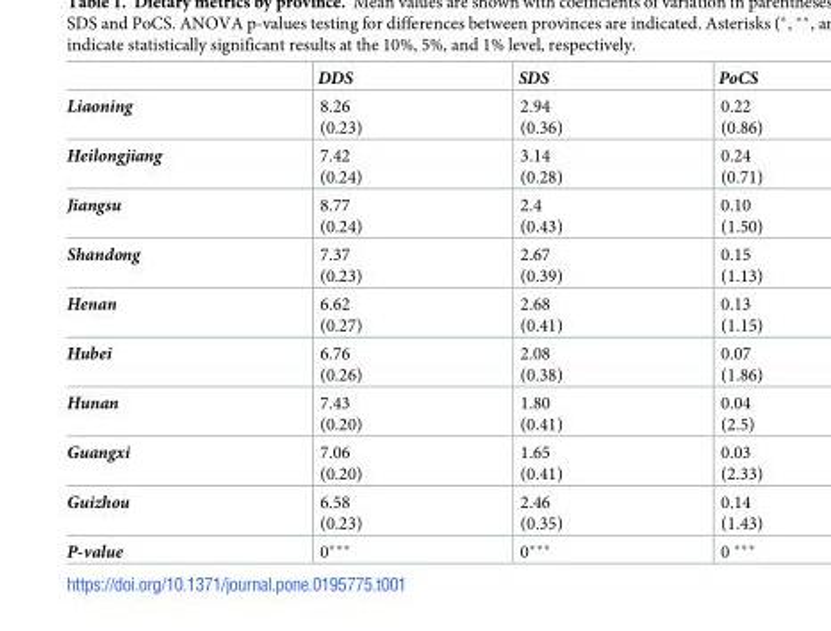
<table><thead><tr><td></td><td>DDS</td><td>SDS</td><td>PoCS</td></tr></thead><tbody><tr><td>Liaoning</td><td>8.26 (0.23)</td><td>2.94 (0.36)</td><td>0.22 (0.86)</td></tr><tr><td>Heilongjiang</td><td>7.42 (0.24)</td><td>3.14 (0.28)</td><td>0.24 (0.71)</td></tr><tr><td>Jiangsu</td><td>8.77 (0.24)</td><td>2.4 (0.43)</td><td>0.10 (1.50)</td></tr><tr><td>Shandong</td><td>7.37 (0.23)</td><td>2.67 (0.39)</td><td>0.15 (1.13)</td></tr><tr><td>Henan</td><td>6.62 (0.27)</td><td>2.68 (0.41)</td><td>0.13 (1.15)</td></tr><tr><td>Hubei</td><td>6.76 (0.26)</td><td>2.08 (0.38)</td><td>0.07 (1.86)</td></tr><tr><td>Hunan</td><td>7.43 (0.20)</td><td>1.80 (0.41)</td><td>0.04 (2.5)</td></tr><tr><td>Guangxi</td><td>7.06 (0.20)</td><td>1.65 (0.41)</td><td>0.03 (2.33)</td></tr><tr><td>Guizhou</td><td>6.58 (0.23)</td><td>2.46 (0.35)</td><td>0.14 (1.43)</td></tr><tr><td>P-value</td><td>0***</td><td>0***</td><td>0 ***</td></tr></tbody></table>